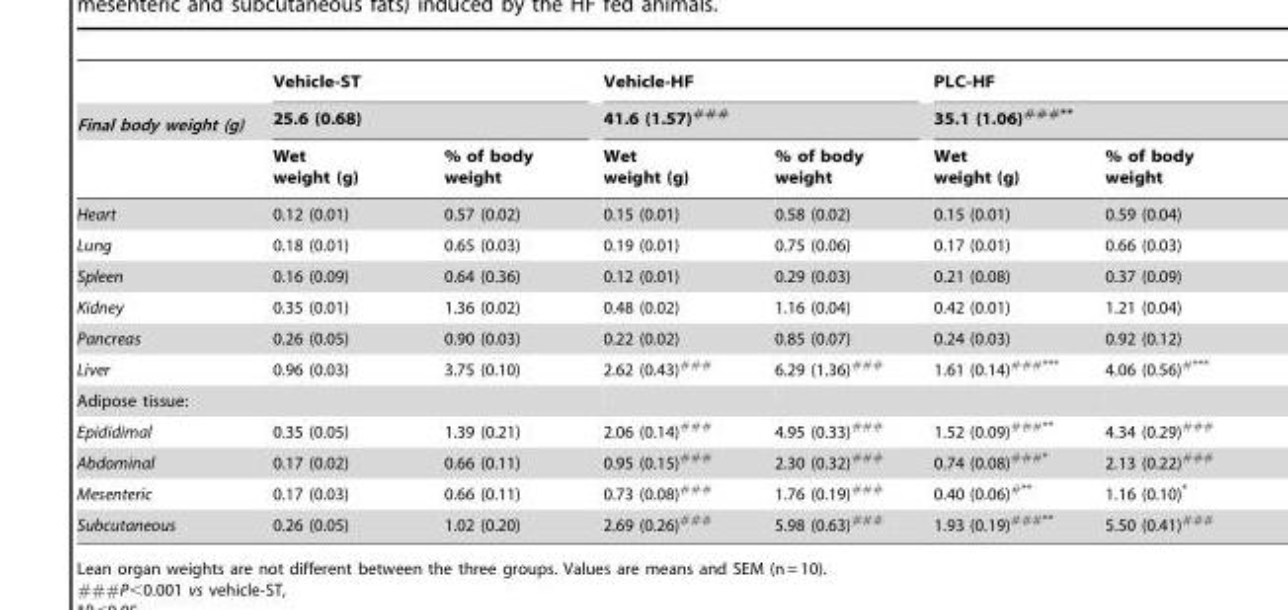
<table><thead><tr><td rowspan="3">Final body weight (g)</td><td rowspan="2" colspan="2">Vehicle-ST 25.6 (0.68)</td><td rowspan="2" colspan="2">Vehicle-HF 41.6 (1.57)###</td><td rowspan="2" colspan="2">PLC-HF 35.1 (1.06)###**</td></tr><tr></tr><tr><td>Wet weight (g)</td><td>% of body weight</td><td>Wet weight (g)</td><td>% of body weight</td><td>Wet weight (g)</td><td>% of body weight</td></tr></thead><tbody><tr><td>Heart</td><td>0.12 (0.01)</td><td>0.57 (0.02)</td><td>0.15 (0.01)</td><td>0.58 (0.02)</td><td>0.15 (0.01)</td><td>0.59 (0.04)</td></tr><tr><td>Lung</td><td>0.18 (0.01)</td><td>0.65 (0.03)</td><td>0.19 (0.01)</td><td>0.75 (0.06)</td><td>0.17 (0.01)</td><td>0.66 (0.03)</td></tr><tr><td>Spleen</td><td>0.16 (0.09)</td><td>0.64 (0.36)</td><td>0.12 (0.01)</td><td>0.29 (0.03)</td><td>0.21 (0.08)</td><td>0.37 (0.09)</td></tr><tr><td>Kidney</td><td>0.35 (0.01)</td><td>1.36 (0.02)</td><td>0.48 (0.02)</td><td>1.16 (0.04)</td><td>0.42 (0.01)</td><td>1.21 (0.04)</td></tr><tr><td>Pancreas</td><td>0.26 (0.05)</td><td>0.90 (0.03)</td><td>0.22 (0.02)</td><td>0.85 (0.07)</td><td>0.24 (0.03)</td><td>0.92 (0.12)</td></tr><tr><td>Liver</td><td>0.96 (0.03)</td><td>3.75 (0.10)</td><td>2.62 (0.43)###</td><td>6.29 (1.36)###</td><td>1.61 (0.14)###***</td><td>4.06 (0.56)<sup>#</sup>***</td></tr><tr><td colspan="7">Adipose tissue:</td></tr><tr><td>Epididimal</td><td>0.35 (0.05)</td><td>1.39 (0.21)</td><td>2.06 (0.14)###</td><td>4.95 (0.33)###</td><td>1.52 (0.09)###**</td><td>4.34 (0.29)###</td></tr><tr><td>Abdominal</td><td>0.17 (0.02)</td><td>0.66 (0.11)</td><td>0.95 (0.15)###</td><td>2.30 (0.32)###</td><td>0.74 (0.08)###*</td><td>2.13 (0.22)###</td></tr><tr><td>Mesenteric</td><td>0.17 (0.03)</td><td>0.66 (0.11)</td><td>0.73 (0.08)###</td><td>1.76 (0.19)###</td><td>0.40 (0.06)<sup>#</sup>**</td><td>1.16 (0.10)*</td></tr><tr><td>Subcutaneous</td><td>0.26 (0.05)</td><td>1.02 (0.20)</td><td>2.69 (0.26)###</td><td>5.98 (0.63)###</td><td>1.93 (0.19)###**</td><td>5.50 (0.41)###</td></tr></tbody></table>